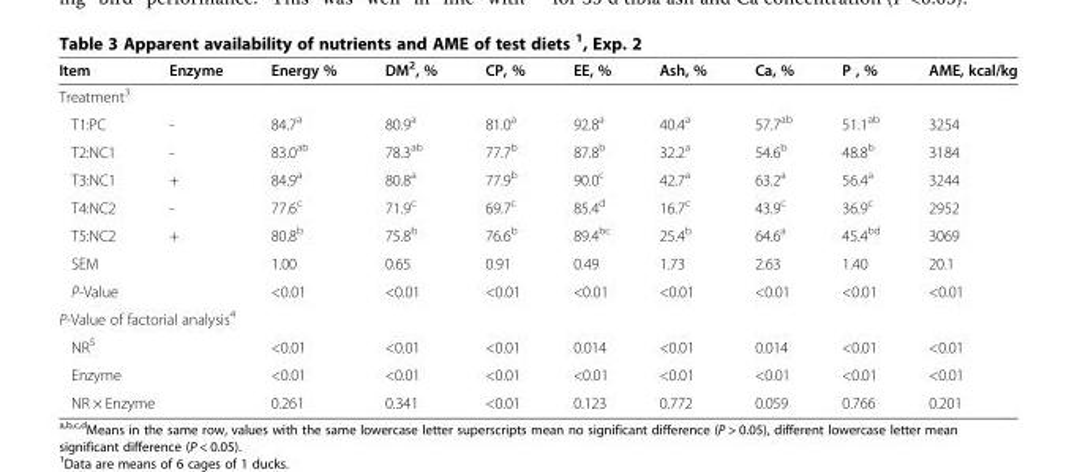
<table><thead><tr><td>Item</td><td>Enzyme</td><td>Energy %</td><td>DM<sup>2</sup>, %</td><td>CP, %</td><td>EE, %</td><td>Ash, %</td><td>Ca, %</td><td>P , %</td><td>AME, kcal/kg</td></tr></thead><tbody><tr><td colspan="10">Treatment<sup>3</sup></td></tr><tr><td>T1:PC</td><td>-</td><td>84.7<sup>a</sup></td><td>80.9<sup>a</sup></td><td>81.0<sup>a</sup></td><td>92.8<sup>a</sup></td><td>40.4<sup>a</sup></td><td>57.7<sup>ab</sup></td><td>51.1<sup>ab</sup></td><td>3254</td></tr><tr><td>T2:NC1</td><td>-</td><td>83.0<sup>ab</sup></td><td>78.3<sup>ab</sup></td><td>77.7<sup>b</sup></td><td>87.8<sup>b</sup></td><td>32.2<sup>a</sup></td><td>54.6<sup>b</sup></td><td>48.8<sup>b</sup></td><td>3184</td></tr><tr><td>T3:NC1</td><td>+</td><td>84.9<sup>a</sup></td><td>80.8<sup>a</sup></td><td>77.9<sup>b</sup></td><td>90.0<sup>c</sup></td><td>42.7<sup>a</sup></td><td>63.2<sup>a</sup></td><td>56.4<sup>a</sup></td><td>3244</td></tr><tr><td>T4:NC2</td><td>-</td><td>77.6<sup>c</sup></td><td>71.9<sup>c</sup></td><td>69.7<sup>c</sup></td><td>85.4<sup>d</sup></td><td>16.7<sup>c</sup></td><td>43.9<sup>c</sup></td><td>36.9<sup>c</sup></td><td>2952</td></tr><tr><td>T5:NC2</td><td>+</td><td>80.8<sup>b</sup></td><td>75.8<sup>b</sup></td><td>76.6<sup>b</sup></td><td>89.4<sup>bc</sup></td><td>25.4<sup>b</sup></td><td>64.6<sup>a</sup></td><td>45.4<sup>bd</sup></td><td>3069</td></tr><tr><td>SEM</td><td></td><td>1.00</td><td>0.65</td><td>0.91</td><td>0.49</td><td>1.73</td><td>2.63</td><td>1.40</td><td>20.1</td></tr><tr><td>P-Value</td><td></td><td>&lt;0.01</td><td>&lt;0.01</td><td>&lt;0.01</td><td>&lt;0.01</td><td>&lt;0.01</td><td>&lt;0.01</td><td>&lt;0.01</td><td>&lt;0.01</td></tr><tr><td colspan="10">P-Value of factorial analysis<sup>4</sup></td></tr><tr><td>NR<sup>5</sup></td><td></td><td>&lt;0.01</td><td>&lt;0.01</td><td>&lt;0.01</td><td>0.014</td><td>&lt;0.01</td><td>0.014</td><td>&lt;0.01</td><td>&lt;0.01</td></tr><tr><td>Enzyme</td><td></td><td>&lt;0.01</td><td>&lt;0.01</td><td>&lt;0.01</td><td>&lt;0.01</td><td>&lt;0.01</td><td>&lt;0.01</td><td>&lt;0.01</td><td>&lt;0.01</td></tr><tr><td colspan="2">NR × Enzyme</td><td>0.261</td><td>0.341</td><td>&lt;0.01</td><td>0.123</td><td>0.772</td><td>0.059</td><td>0.766</td><td>0.201</td></tr></tbody></table>